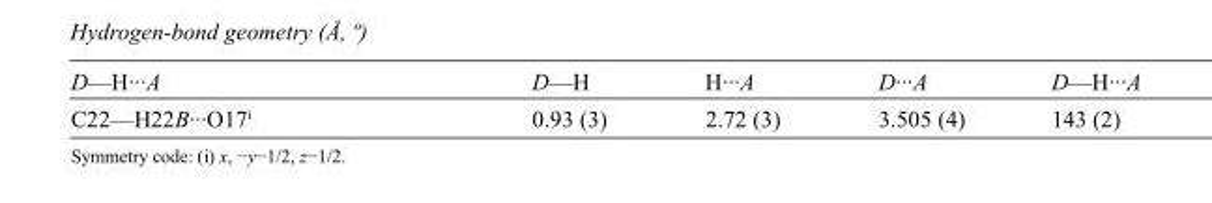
<table><tbody><tr><td>D—H···A</td><td>D—H</td><td>H···A</td><td>D···A</td><td>D—H···A</td></tr><tr><td>C22—H22B···O17<sup>i</sup></td><td>0.93 (3)</td><td>2.72 (3)</td><td>3.505 (4)</td><td>143 (2)</td></tr></tbody></table>